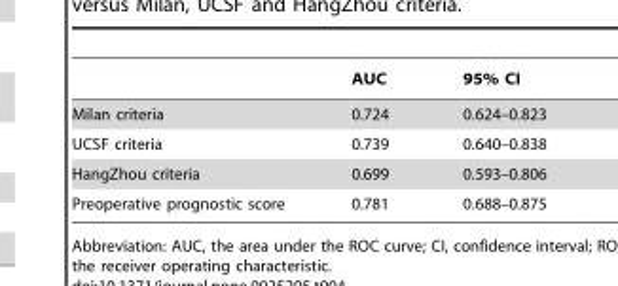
<table><thead><tr><td></td><td>AUC</td><td>95% CI</td></tr></thead><tbody><tr><td>Milan criteria</td><td>0.724</td><td>0.624–0.823</td></tr><tr><td>UCSF criteria</td><td>0.739</td><td>0.640–0.838</td></tr><tr><td>HangZhou criteria</td><td>0.699</td><td>0.593–0.806</td></tr><tr><td>Preoperative prognostic score</td><td>0.781</td><td>0.688–0.875</td></tr></tbody></table>